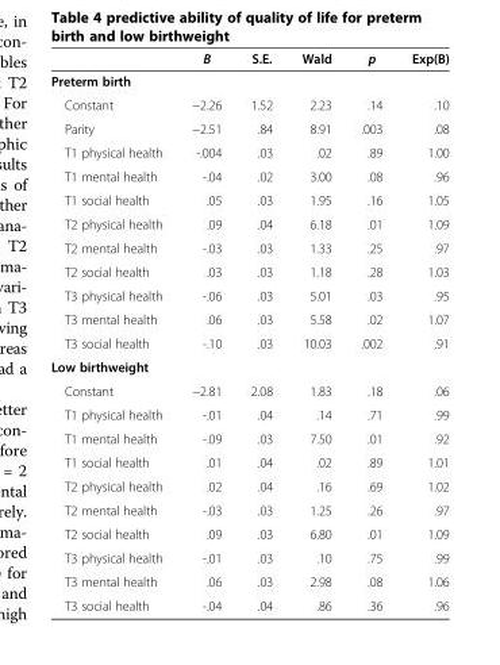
<table><thead><tr><td></td><td>B</td><td>S.E.</td><td>Wald</td><td>p</td><td>Exp(B)</td></tr></thead><tbody><tr><td colspan="6">Preterm birth</td></tr><tr><td>Constant</td><td>−2.26</td><td>1.52</td><td>2.23</td><td>.14</td><td>.10</td></tr><tr><td>Parity</td><td>−2.51</td><td>.84</td><td>8.91</td><td>.003</td><td>.08</td></tr><tr><td>T1 physical health</td><td>-.004</td><td>.03</td><td>.02</td><td>.89</td><td>1.00</td></tr><tr><td>T1 mental health</td><td>-.04</td><td>.02</td><td>3.00</td><td>.08</td><td>.96</td></tr><tr><td>T1 social health</td><td>.05</td><td>.03</td><td>1.95</td><td>.16</td><td>1.05</td></tr><tr><td>T2 physical health</td><td>.09</td><td>.04</td><td>6.18</td><td>.01</td><td>1.09</td></tr><tr><td>T2 mental health</td><td>-.03</td><td>.03</td><td>1.33</td><td>.25</td><td>.97</td></tr><tr><td>T2 social health</td><td>.03</td><td>.03</td><td>1.18</td><td>.28</td><td>1.03</td></tr><tr><td>T3 physical health</td><td>-.06</td><td>.03</td><td>5.01</td><td>.03</td><td>.95</td></tr><tr><td>T3 mental health</td><td>.06</td><td>.03</td><td>5.58</td><td>.02</td><td>1.07</td></tr><tr><td>T3 social health</td><td>-.10</td><td>.03</td><td>10.03</td><td>.002</td><td>.91</td></tr><tr><td colspan="6">Low birthweight</td></tr><tr><td>Constant</td><td>−2.81</td><td>2.08</td><td>1.83</td><td>.18</td><td>.06</td></tr><tr><td>T1 physical health</td><td>-.01</td><td>.04</td><td>.14</td><td>.71</td><td>.99</td></tr><tr><td>T1 mental health</td><td>-.09</td><td>.03</td><td>7.50</td><td>.01</td><td>.92</td></tr><tr><td>T1 social health</td><td>.01</td><td>.04</td><td>.02</td><td>.89</td><td>1.01</td></tr><tr><td>T2 physical health</td><td>.02</td><td>.04</td><td>.16</td><td>.69</td><td>1.02</td></tr><tr><td>T2 mental health</td><td>-.03</td><td>.03</td><td>1.25</td><td>.26</td><td>.97</td></tr><tr><td>T2 social health</td><td>.09</td><td>.03</td><td>6.80</td><td>.01</td><td>1.09</td></tr><tr><td>T3 physical health</td><td>-.01</td><td>.03</td><td>.10</td><td>.75</td><td>.99</td></tr><tr><td>T3 mental health</td><td>.06</td><td>.03</td><td>2.98</td><td>.08</td><td>1.06</td></tr><tr><td>T3 social health</td><td>-.04</td><td>.04</td><td>.86</td><td>.36</td><td>.96</td></tr></tbody></table>